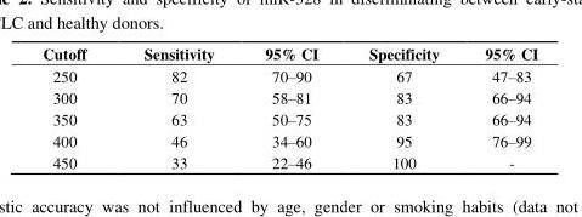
<table><thead><tr><td>Cutoff</td><td>Sensitivity</td><td>95% CI</td><td>Specificity</td><td>95% CI</td></tr></thead><tbody><tr><td>250</td><td>82</td><td>70–90</td><td>67</td><td>47–83</td></tr><tr><td>300</td><td>70</td><td>58–81</td><td>83</td><td>66–94</td></tr><tr><td>350</td><td>63</td><td>50–75</td><td>83</td><td>66–94</td></tr><tr><td>400</td><td>46</td><td>34–60</td><td>95</td><td>76–99</td></tr><tr><td>450</td><td>33</td><td>22–46</td><td>100</td><td>-</td></tr></tbody></table>